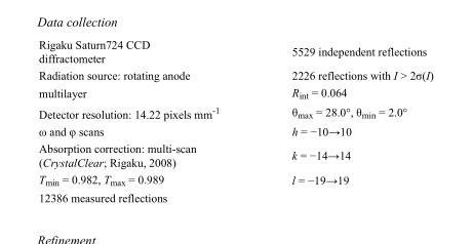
<table><tbody><tr><td>Rigaku Saturn724 CCD diffractometer</td><td>5529 independent reflections</td></tr><tr><td>Radiation source: rotating anode</td><td>2226 reflections with I &gt; 2σ(I)</td></tr><tr><td>multilayer</td><td>R<sub>int</sub> = 0.064</td></tr><tr><td>Detector resolution: 14.22 pixels mm<sup>-1</sup></td><td>θ<sub>max</sub> = 28.0°, θ<sub>min</sub> = 2.0°</td></tr><tr><td>ω and φ scans</td><td>h = −10→10</td></tr><tr><td>Absorption correction: multi-scan (CrystalClear; Rigaku, 2008)</td><td>k = −14→14</td></tr><tr><td>T<sub>min</sub> = 0.982, T<sub>max</sub> = 0.989</td><td>l = −19→19</td></tr><tr><td>12386 measured reflections</td><td></td></tr></tbody></table>